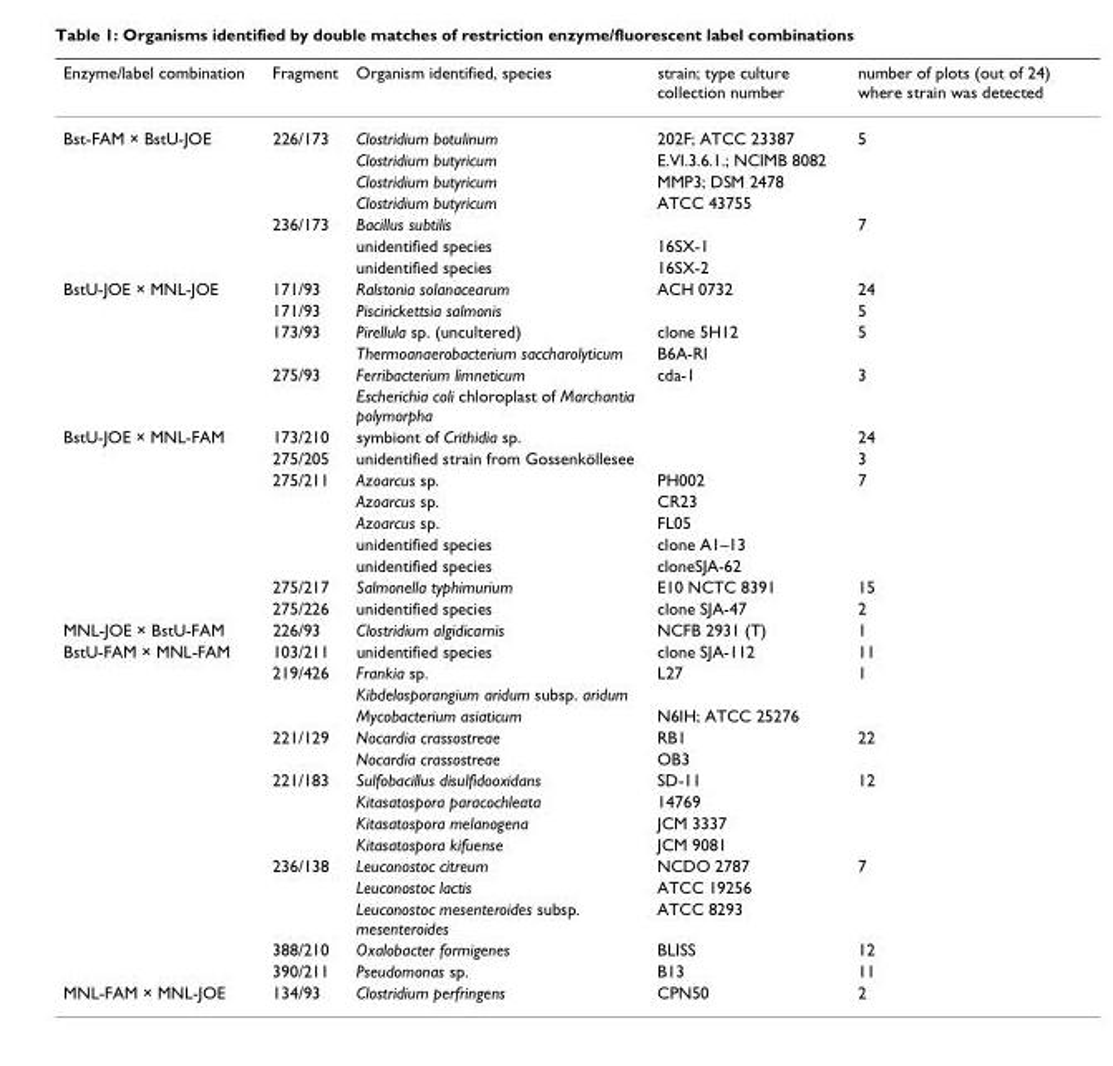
<table><thead><tr><td>Enzyme/label combination</td><td>Fragment</td><td>Organism identified, species</td><td>strain; type culture collection number</td><td>number of plots (out of 24) where strain was detected</td></tr></thead><tbody><tr><td rowspan="7">Bst-FAM × BstU-JOE</td><td>226/173</td><td>Clostridium botulinum</td><td>202F; ATCC 23387</td><td>5</td></tr><tr><td></td><td>Clostridium butyricum</td><td>E.VI.3.6.1.; NCIMB 8082</td><td></td></tr><tr><td></td><td>Clostridium butyricum</td><td>MMP3; DSM 2478</td><td></td></tr><tr><td></td><td>Clostridium butyricum</td><td>ATCC 43755</td><td></td></tr><tr><td>236/173</td><td>Bacillus subtilis</td><td></td><td>7</td></tr><tr><td></td><td>unidentified species</td><td>16SX-1</td><td></td></tr><tr><td></td><td>unidentified species</td><td>16SX-2</td><td></td></tr><tr><td rowspan="6">BstU-JOE × MNL-JOE</td><td>171/93</td><td>Ralstonia solanacearum</td><td>ACH 0732</td><td>24</td></tr><tr><td>171/93</td><td>Piscirickettsia salmonis</td><td></td><td>5</td></tr><tr><td>173/93</td><td>Pirellula sp. (uncultered)</td><td>clone 5H12</td><td>5</td></tr><tr><td></td><td>Thermoanaerobacterium saccharolyticum</td><td>B6A-RI</td><td></td></tr><tr><td>275/93</td><td>Ferribacterium limneticum</td><td>cda-1</td><td>3</td></tr><tr><td></td><td>Escherichia coli chloroplast of Marchantia polymorpha</td><td></td><td></td></tr><tr><td rowspan="9">BstU-JOE × MNL-FAM</td><td>173/210</td><td>symbiont of Crithidia sp.</td><td></td><td>24</td></tr><tr><td>275/205</td><td>unidentified strain from Gossenköllesee</td><td></td><td>3</td></tr><tr><td>275/211</td><td>Azoarcus sp.</td><td>PH002</td><td>7</td></tr><tr><td></td><td>Azoarcus sp.</td><td>CR23</td><td></td></tr><tr><td></td><td>Azoarcus sp.</td><td>FL05</td><td></td></tr><tr><td></td><td>unidentified species</td><td>clone A1–13</td><td></td></tr><tr><td></td><td>unidentified species</td><td>cloneSJA-62</td><td></td></tr><tr><td>275/217</td><td>Salmonella typhimurium</td><td>E10 NCTC 8391</td><td>15</td></tr><tr><td>275/226</td><td>unidentified species</td><td>clone SJA-47</td><td>2</td></tr><tr><td>MNL-JOE × BstU-FAM</td><td>226/93</td><td>Clostridium algidicarnis</td><td>NCFB 2931 (T)</td><td>1</td></tr><tr><td rowspan="15">BstU-FAM × MNL-FAM</td><td>103/211</td><td>unidentified species</td><td>clone SJA-112</td><td>11</td></tr><tr><td>219/426</td><td>Frankia sp.</td><td>L27</td><td>1</td></tr><tr><td></td><td>Kibdelosporangium aridum subsp. aridum</td><td></td><td></td></tr><tr><td></td><td>Mycobacterium asiaticum</td><td>N6IH; ATCC 25276</td><td></td></tr><tr><td>221/129</td><td>Nocardia crassostreae</td><td>RB1</td><td>22</td></tr><tr><td></td><td>Nocardia crassostreae</td><td>OB3</td><td></td></tr><tr><td>221/183</td><td>Sulfobacillus disulfidooxidans</td><td>SD-11</td><td>12</td></tr><tr><td></td><td>Kitasatospora paracochleata</td><td>14769</td><td></td></tr><tr><td></td><td>Kitasatospora melanogena</td><td>JCM 3337</td><td></td></tr><tr><td></td><td>Kitasatospora kifuense</td><td>JCM 9081</td><td></td></tr><tr><td>236/138</td><td>Leuconostoc citreum</td><td>NCDO 2787</td><td>7</td></tr><tr><td></td><td>Leuconostoc lactis</td><td>ATCC 19256</td><td></td></tr><tr><td></td><td>Leuconostoc mesenteroides subsp. mesenteroides</td><td>ATCC 8293</td><td></td></tr><tr><td>388/210</td><td>Oxalobacter formigenes</td><td>BLISS</td><td>12</td></tr><tr><td>390/211</td><td>Pseudomonas sp.</td><td>B13</td><td>11</td></tr><tr><td>MNL-FAM × MNL-JOE</td><td>134/93</td><td>Clostridium perfringens</td><td>CPN50</td><td>2</td></tr></tbody></table>